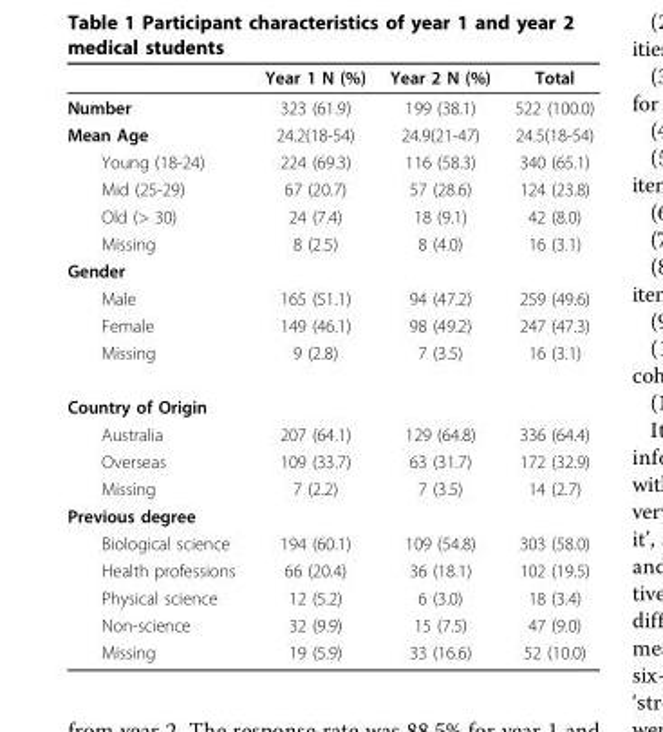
<table><thead><tr><td></td><td>Year 1 N (%)</td><td>Year 2 N (%)</td><td>Total</td></tr></thead><tbody><tr><td>Number</td><td>323 (61.9)</td><td>199 (38.1)</td><td>522 (100.0)</td></tr><tr><td>Mean Age</td><td>24.2(18-54)</td><td>24.9(21-47)</td><td>24.5(18-54)</td></tr><tr><td>Young (18-24)</td><td>224 (69.3)</td><td>116 (58.3)</td><td>340 (65.1)</td></tr><tr><td>Mid (25-29)</td><td>67 (20.7)</td><td>57 (28.6)</td><td>124 (23.8)</td></tr><tr><td>Old (&gt; 30)</td><td>24 (7.4)</td><td>18 (9.1)</td><td>42 (8.0)</td></tr><tr><td>Missing</td><td>8 (2.5)</td><td>8 (4.0)</td><td>16 (3.1)</td></tr><tr><td colspan="4">Gender</td></tr><tr><td>Male</td><td>165 (51.1)</td><td>94 (47.2)</td><td>259 (49.6)</td></tr><tr><td>Female</td><td>149 (46.1)</td><td>98 (49.2)</td><td>247 (47.3)</td></tr><tr><td>Missing</td><td>9 (2.8)</td><td>7 (3.5)</td><td>16 (3.1)</td></tr><tr><td colspan="4">Country of Origin</td></tr><tr><td>Australia</td><td>207 (64.1)</td><td>129 (64.8)</td><td>336 (64.4)</td></tr><tr><td>Overseas</td><td>109 (33.7)</td><td>63 (31.7)</td><td>172 (32.9)</td></tr><tr><td>Missing</td><td>7 (2.2)</td><td>7 (3.5)</td><td>14 (2.7)</td></tr><tr><td colspan="4">Previous degree</td></tr><tr><td>Biological science</td><td>194 (60.1)</td><td>109 (54.8)</td><td>303 (58.0)</td></tr><tr><td>Health professions</td><td>66 (20.4)</td><td>36 (18.1)</td><td>102 (19.5)</td></tr><tr><td>Physical science</td><td>12 (5.2)</td><td>6 (3.0)</td><td>18 (3.4)</td></tr><tr><td>Non-science</td><td>32 (9.9)</td><td>15 (7.5)</td><td>47 (9.0)</td></tr><tr><td>Missing</td><td>19 (5.9)</td><td>33 (16.6)</td><td>52 (10.0)</td></tr></tbody></table>